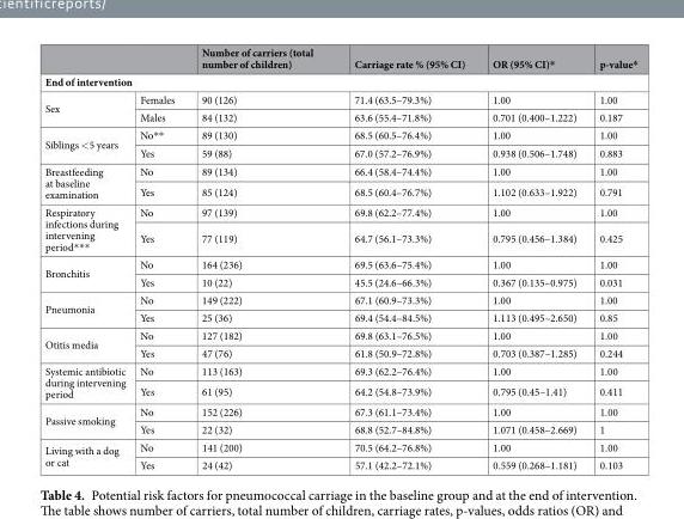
<table><thead><tr><td></td><td></td><td>Number of carriers (total number of children)</td><td>Carriage rate % (95% CI)</td><td>OR (95% CI)*</td><td>p-value*</td></tr></thead><tbody><tr><td colspan="6">End of intervention</td></tr><tr><td rowspan="2">Sex</td><td>Females</td><td>90 (126)</td><td>71.4 (63.5–79.3%)</td><td>1.00</td><td>1.00</td></tr><tr><td>Males</td><td>84 (132)</td><td>63.6 (55.4–71.8%)</td><td>0.701 (0.400–1.222)</td><td>0.187</td></tr><tr><td rowspan="2">Siblings &lt;5 years</td><td>No**</td><td>89 (130)</td><td>68.5 (60.5–76.4%)</td><td>1.00</td><td>1.00</td></tr><tr><td>Yes</td><td>59 (88)</td><td>67.0 (57.2–76.9%)</td><td>0.938 (0.506–1.748)</td><td>0.883</td></tr><tr><td rowspan="2">Breastfeeding at baseline examination</td><td>No</td><td>89 (134)</td><td>66.4 (58.4–74.4%)</td><td>1.00</td><td>1.00</td></tr><tr><td>Yes</td><td>85 (124)</td><td>68.5 (60.4–76.7%)</td><td>1.102 (0.633–1.922)</td><td>0.791</td></tr><tr><td rowspan="2">Respiratory infections during intervening period***</td><td>No</td><td>97 (139)</td><td>69.8 (62.2–77.4%)</td><td>1.00</td><td>1.00</td></tr><tr><td>Yes</td><td>77 (119)</td><td>64.7 (56.1–73.3%)</td><td>0.795 (0.456–1.384)</td><td>0.425</td></tr><tr><td rowspan="2">Bronchitis</td><td>No</td><td>164 (236)</td><td>69.5 (63.6–75.4%)</td><td>1.00</td><td>1.00</td></tr><tr><td>Yes</td><td>10 (22)</td><td>45.5 (24.6–66.3%)</td><td>0.367 (0.135–0.975)</td><td>0.031</td></tr><tr><td rowspan="2">Pneumonia</td><td>No</td><td>149 (222)</td><td>67.1 (60.9–73.3%)</td><td>1.00</td><td>1.00</td></tr><tr><td>Yes</td><td>25 (36)</td><td>69.4 (54.4–84.5%)</td><td>1.113 (0.495–2.650)</td><td>0.85</td></tr><tr><td rowspan="2">Otitis media</td><td>No</td><td>127 (182)</td><td>69.8 (63.1–76.5%)</td><td>1.00</td><td>1.00</td></tr><tr><td>Yes</td><td>47 (76)</td><td>61.8 (50.9–72.8%)</td><td>0.703 (0.387–1.285)</td><td>0.244</td></tr><tr><td rowspan="2">Systemic antibiotic during intervening period</td><td>No</td><td>113 (163)</td><td>69.3 (62.2–76.4%)</td><td>1.00</td><td>1.00</td></tr><tr><td>Yes</td><td>61 (95)</td><td>64.2 (54.8–73.9%)</td><td>0.795 (0.45–1.41)</td><td>0.411</td></tr><tr><td rowspan="2">Passive smoking</td><td>No</td><td>152 (226)</td><td>67.3 (61.1–73.4%)</td><td>1.00</td><td>1.00</td></tr><tr><td>Yes</td><td>22 (32)</td><td>68.8 (52.7–84.8%)</td><td>1.071 (0.458–2.669)</td><td>1</td></tr><tr><td rowspan="2">Living with a dog or cat</td><td>No</td><td>141 (200)</td><td>70.5 (64.2–76.8%)</td><td>1.00</td><td>1.00</td></tr><tr><td>Yes</td><td>24 (42)</td><td>57.1 (42.2–72.1%)</td><td>0.559 (0.268–1.181)</td><td>0.103</td></tr></tbody></table>